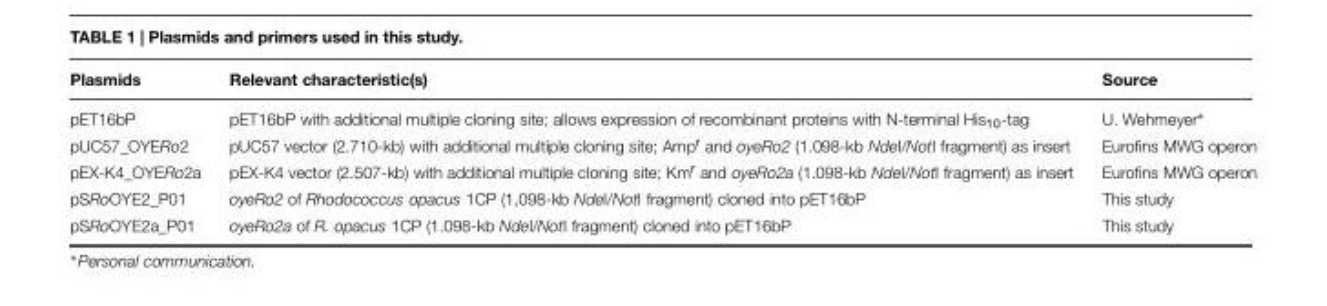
<table><thead><tr><td>Plasmids</td><td>Relevant characteristic(s)</td><td>Source</td></tr></thead><tbody><tr><td>pET16bP</td><td>pET16bP with additional multiple cloning site; allows expression of recombinant proteins with N-terminal His<sub>10</sub>-tag</td><td>U. Wehmeyer∗</td></tr><tr><td>pUC57_OYERo2</td><td>pUC57 vector (2.710-kb) with additional multiple cloning site; Amp<sup>r</sup> and oyeRo2 (1.098-kb NdeI/NotI fragment) as insert</td><td>Eurofins MWG operon</td></tr><tr><td>pEX-K4_OYERo2a</td><td>pEX-K4 vector (2.507-kb) with additional multiple cloning site; Km<sup>r</sup> and oyeRo2a (1.098-kb NdeI/NotI fragment) as insert</td><td>Eurofins MWG operon</td></tr><tr><td>pSRoOYE2_P01</td><td>oyeRo2 of Rhodococcus opacus 1CP (1,098-kb NdeI/NotI fragment) cloned into pET16bP</td><td>This study</td></tr><tr><td>pSRoOYE2a_P01</td><td>oyeRo2a of R. opacus 1CP (1.098-kb NdeI/NotI fragment) cloned into pET16bP</td><td>This study</td></tr></tbody></table>